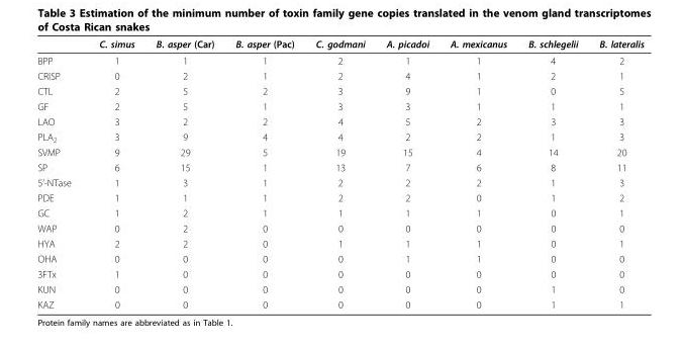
<table><thead><tr><td></td><td>C. simus</td><td>B. asper (Car)</td><td>B. asper (Pac)</td><td>C. godmani</td><td>A. picadoi</td><td>A. mexicanus</td><td>B. schlegelii</td><td>B. lateralis</td></tr></thead><tbody><tr><td>BPP</td><td>1</td><td>1</td><td>1</td><td>2</td><td>1</td><td>1</td><td>4</td><td>2</td></tr><tr><td>CRISP</td><td>0</td><td>2</td><td>1</td><td>2</td><td>4</td><td>1</td><td>2</td><td>1</td></tr><tr><td>CTL</td><td>2</td><td>5</td><td>2</td><td>3</td><td>9</td><td>1</td><td>0</td><td>5</td></tr><tr><td>GF</td><td>2</td><td>5</td><td>1</td><td>3</td><td>3</td><td>1</td><td>1</td><td>1</td></tr><tr><td>LAO</td><td>3</td><td>2</td><td>2</td><td>4</td><td>5</td><td>2</td><td>3</td><td>3</td></tr><tr><td>PLA<sub>2</sub></td><td>3</td><td>9</td><td>4</td><td>4</td><td>2</td><td>2</td><td>1</td><td>3</td></tr><tr><td>SVMP</td><td>9</td><td>29</td><td>5</td><td>19</td><td>15</td><td>4</td><td>14</td><td>20</td></tr><tr><td>SP</td><td>6</td><td>15</td><td>1</td><td>13</td><td>7</td><td>6</td><td>8</td><td>11</td></tr><tr><td>5’-NTase</td><td>1</td><td>3</td><td>1</td><td>2</td><td>2</td><td>2</td><td>1</td><td>3</td></tr><tr><td>PDE</td><td>1</td><td>1</td><td>1</td><td>2</td><td>2</td><td>0</td><td>1</td><td>2</td></tr><tr><td>GC</td><td>1</td><td>2</td><td>1</td><td>1</td><td>1</td><td>1</td><td>0</td><td>1</td></tr><tr><td>WAP</td><td>0</td><td>2</td><td>0</td><td>0</td><td>0</td><td>0</td><td>0</td><td>0</td></tr><tr><td>HYA</td><td>2</td><td>2</td><td>0</td><td>1</td><td>1</td><td>1</td><td>0</td><td>1</td></tr><tr><td>OHA</td><td>0</td><td>0</td><td>0</td><td>0</td><td>1</td><td>1</td><td>0</td><td>0</td></tr><tr><td>3FTx</td><td>1</td><td>0</td><td>0</td><td>0</td><td>0</td><td>0</td><td>0</td><td>0</td></tr><tr><td>KUN</td><td>0</td><td>0</td><td>0</td><td>0</td><td>0</td><td>0</td><td>1</td><td>0</td></tr><tr><td>KAZ</td><td>0</td><td>0</td><td>0</td><td>0</td><td>0</td><td>0</td><td>1</td><td>1</td></tr></tbody></table>